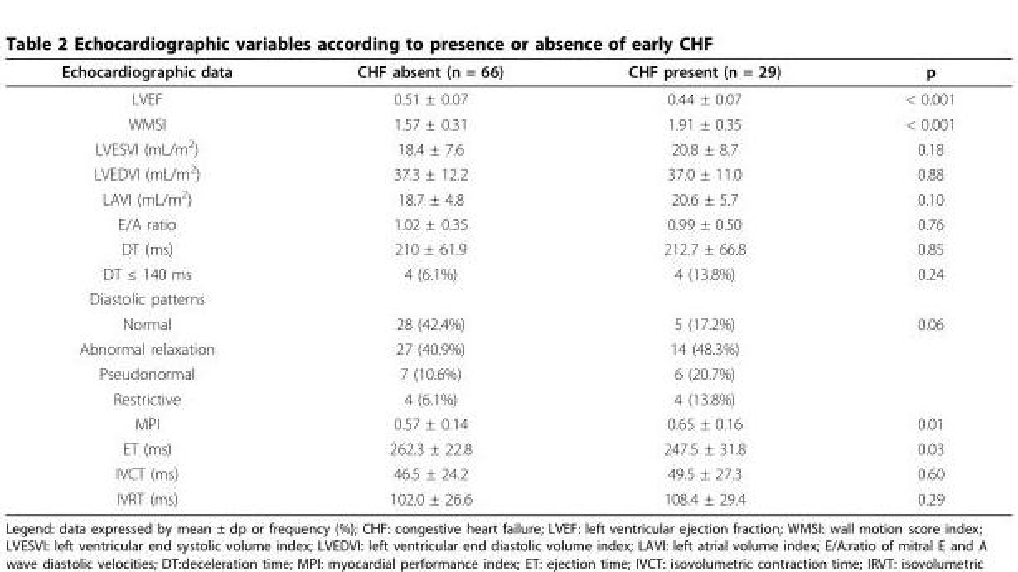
<table><thead><tr><td>Echocardiographic data</td><td>CHF absent (n = 66)</td><td>CHF present (n = 29)</td><td>p</td></tr></thead><tbody><tr><td>LVEF</td><td>0.51 ± 0.07</td><td>0.44 ± 0.07</td><td>&lt; 0.001</td></tr><tr><td>WMSI</td><td>1.57 ± 0.31</td><td>1.91 ± 0.35</td><td>&lt; 0.001</td></tr><tr><td>LVESVI (mL/m<sup>2</sup>)</td><td>18.4 ± 7.6</td><td>20.8 ± 8.7</td><td>0.18</td></tr><tr><td>LVEDVI (mL/m<sup>2</sup>)</td><td>37.3 ± 12.2</td><td>37.0 ± 11.0</td><td>0.88</td></tr><tr><td>LAVI (mL/m<sup>2</sup>)</td><td>18.7 ± 4.8</td><td>20.6 ± 5.7</td><td>0.10</td></tr><tr><td>E/A ratio</td><td>1.02 ± 0.35</td><td>0.99 ± 0.50</td><td>0.76</td></tr><tr><td>DT (ms)</td><td>210 ± 61.9</td><td>212.7 ± 66.8</td><td>0.85</td></tr><tr><td>DT ≤ 140 ms</td><td>4 (6.1%)</td><td>4 (13.8%)</td><td>0.24</td></tr><tr><td colspan="4">Diastolic patterns</td></tr><tr><td>Normal</td><td>28 (42.4%)</td><td>5 (17.2%)</td><td>0.06</td></tr><tr><td>Abnormal relaxation</td><td>27 (40.9%)</td><td>14 (48.3%)</td><td></td></tr><tr><td>Pseudonormal</td><td>7 (10.6%)</td><td>6 (20.7%)</td><td></td></tr><tr><td>Restrictive</td><td>4 (6.1%)</td><td>4 (13.8%)</td><td></td></tr><tr><td>MPI</td><td>0.57 ± 0.14</td><td>0.65 ± 0.16</td><td>0.01</td></tr><tr><td>ET (ms)</td><td>262.3 ± 22.8</td><td>247.5 ± 31.8</td><td>0.03</td></tr><tr><td>IVCT (ms)</td><td>46.5 ± 24.2</td><td>49.5 ± 27.3</td><td>0.60</td></tr><tr><td>IVRT (ms)</td><td>102.0 ± 26.6</td><td>108.4 ± 29.4</td><td>0.29</td></tr></tbody></table>